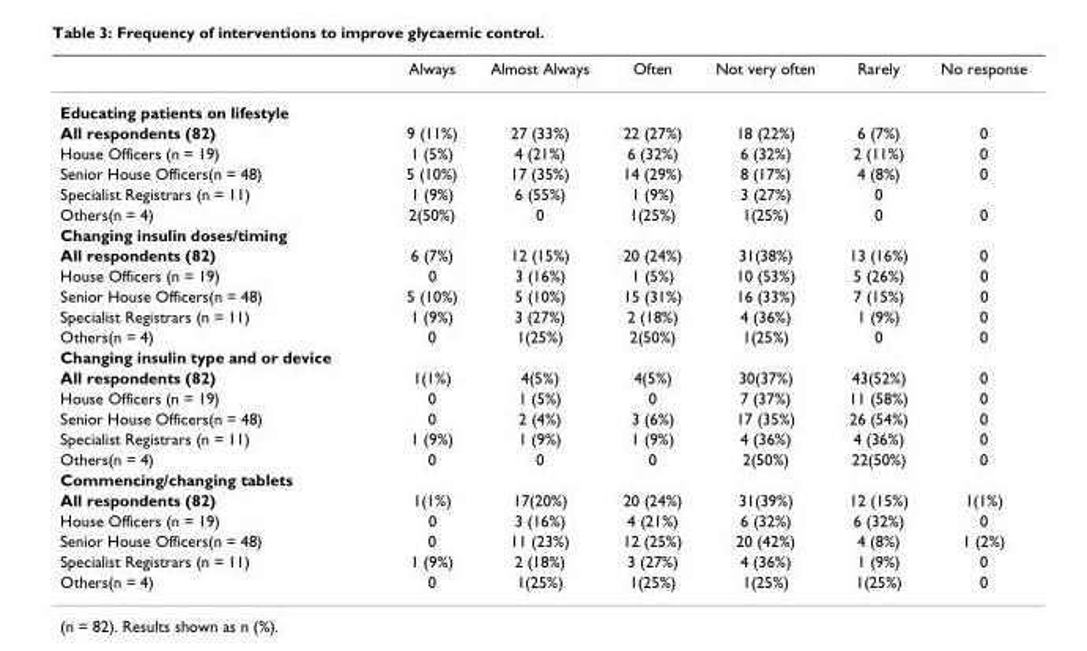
<table><thead><tr><td></td><td>Always</td><td>Almost Always</td><td>Often</td><td>Not very often</td><td>Rarely</td><td>No response</td></tr></thead><tbody><tr><td colspan="7">Educating patients on lifestyle</td></tr><tr><td>All respondents (82)</td><td>9 (11%)</td><td>27 (33%)</td><td>22 (27%)</td><td>18 (22%)</td><td>6 (7%)</td><td>0</td></tr><tr><td>House Officers (n = 19)</td><td>1 (5%)</td><td>4 (21%)</td><td>6 (32%)</td><td>6 (32%)</td><td>2 (11%)</td><td>0</td></tr><tr><td>Senior House Officers(n = 48)</td><td>5 (10%)</td><td>17 (35%)</td><td>14 (29%)</td><td>8 (17%)</td><td>4 (8%)</td><td>0</td></tr><tr><td>Specialist Registrars (n = 11)</td><td>1 (9%)</td><td>6 (55%)</td><td>1 (9%)</td><td>3 (27%)</td><td>0</td><td></td></tr><tr><td>Others(n = 4)</td><td>2(50%)</td><td>0</td><td>1(25%)</td><td>1(25%)</td><td>0</td><td>0</td></tr><tr><td colspan="7">Changing insulin doses/timing</td></tr><tr><td>All respondents (82)</td><td>6 (7%)</td><td>12 (15%)</td><td>20 (24%)</td><td>31(38%)</td><td>13 (16%)</td><td>0</td></tr><tr><td>House Officers (n = 19)</td><td>0</td><td>3 (16%)</td><td>1 (5%)</td><td>10 (53%)</td><td>5 (26%)</td><td>0</td></tr><tr><td>Senior House Officers(n = 48)</td><td>5 (10%)</td><td>5 (10%)</td><td>15 (31%)</td><td>16 (33%)</td><td>7 (15%)</td><td>0</td></tr><tr><td>Specialist Registrars (n = 11)</td><td>1 (9%)</td><td>3 (27%)</td><td>2 (18%)</td><td>4 (36%)</td><td>1 (9%)</td><td>0</td></tr><tr><td>Others(n = 4)</td><td>0</td><td>1(25%)</td><td>2(50%)</td><td>1(25%)</td><td>0</td><td>0</td></tr><tr><td colspan="7">Changing insulin type and or device</td></tr><tr><td>All respondents (82)</td><td>1(1%)</td><td>4(5%)</td><td>4(5%)</td><td>30(37%)</td><td>43(52%)</td><td>0</td></tr><tr><td>House Officers (n = 19)</td><td>0</td><td>1 (5%)</td><td>0</td><td>7 (37%)</td><td>11 (58%)</td><td>0</td></tr><tr><td>Senior House Officers(n = 48)</td><td>0</td><td>2 (4%)</td><td>3 (6%)</td><td>17 (35%)</td><td>26 (54%)</td><td>0</td></tr><tr><td>Specialist Registrars (n = 11)</td><td>1 (9%)</td><td>1 (9%)</td><td>1 (9%)</td><td>4 (36%)</td><td>4 (36%)</td><td>0</td></tr><tr><td>Others(n = 4)</td><td>0</td><td>0</td><td>0</td><td>2(50%)</td><td>22(50%)</td><td>0</td></tr><tr><td colspan="7">Commencing/changing tablets</td></tr><tr><td>All respondents (82)</td><td>1(1%)</td><td>17(20%)</td><td>20 (24%)</td><td>31(39%)</td><td>12 (15%)</td><td>1(1%)</td></tr><tr><td>House Officers (n = 19)</td><td>0</td><td>3 (16%)</td><td>4 (21%)</td><td>6 (32%)</td><td>6 (32%)</td><td>0</td></tr><tr><td>Senior House Officers(n = 48)</td><td>0</td><td>11 (23%)</td><td>12 (25%)</td><td>20 (42%)</td><td>4 (8%)</td><td>1 (2%)</td></tr><tr><td>Specialist Registrars (n = 11)</td><td>1 (9%)</td><td>2 (18%)</td><td>3 (27%)</td><td>4 (36%)</td><td>1 (9%)</td><td>0</td></tr><tr><td>Others(n = 4)</td><td>0</td><td>1(25%)</td><td>1(25%)</td><td>1(25%)</td><td>1(25%)</td><td>0</td></tr></tbody></table>